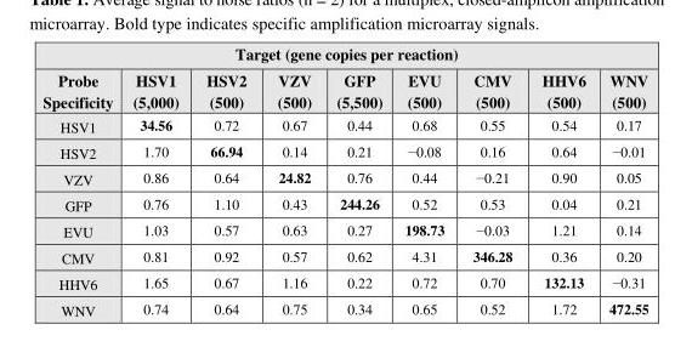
<table><thead><tr><td colspan="9">Target (gene copies per reaction)</td></tr><tr><td>Probe Specificity</td><td>HSV1 (5,000)</td><td>HSV2 (500)</td><td>VZV (500)</td><td>GFP (5,500)</td><td>EVU (500)</td><td>CMV (500)</td><td>HHV6 (500)</td><td>WNV (500)</td></tr></thead><tbody><tr><td>HSV1</td><td>34.56</td><td>0.72</td><td>0.67</td><td>0.44</td><td>0.68</td><td>0.55</td><td>0.54</td><td>0.17</td></tr><tr><td>HSV2</td><td>1.70</td><td>66.94</td><td>0.14</td><td>0.21</td><td>−0.08</td><td>0.16</td><td>0.64</td><td>−0.01</td></tr><tr><td>VZV</td><td>0.86</td><td>0.64</td><td>24.82</td><td>0.76</td><td>0.44</td><td>−0.21</td><td>0.90</td><td>0.05</td></tr><tr><td>GFP</td><td>0.76</td><td>1.10</td><td>0.43</td><td>244.26</td><td>0.52</td><td>0.53</td><td>0.04</td><td>0.21</td></tr><tr><td>EVU</td><td>1.03</td><td>0.57</td><td>0.63</td><td>0.27</td><td>198.73</td><td>−0.03</td><td>1.21</td><td>0.14</td></tr><tr><td>CMV</td><td>0.81</td><td>0.92</td><td>0.57</td><td>0.62</td><td>4.31</td><td>346.28</td><td>0.36</td><td>0.20</td></tr><tr><td>HHV6</td><td>1.65</td><td>0.67</td><td>1.16</td><td>0.22</td><td>0.72</td><td>0.70</td><td>132.13</td><td>−0.31</td></tr><tr><td>WNV</td><td>0.74</td><td>0.64</td><td>0.75</td><td>0.34</td><td>0.65</td><td>0.52</td><td>1.72</td><td>472.55</td></tr></tbody></table>